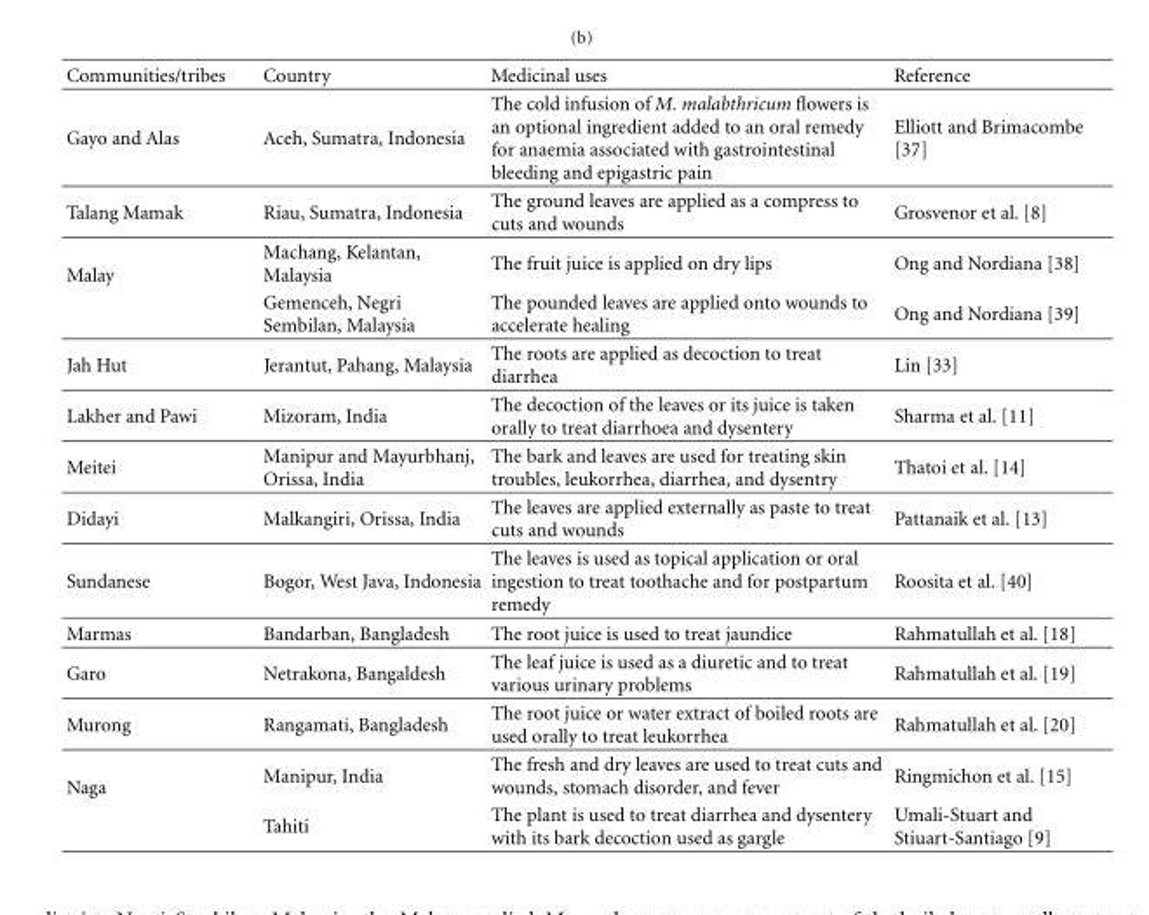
<table><thead><tr><td>Communities/tribes</td><td>Country</td><td>Medicinal uses</td><td>Reference</td></tr></thead><tbody><tr><td>Gayo and Alas</td><td>Aceh, Sumatra, Indonesia</td><td>The cold infusion of M. malabthricum flowers is an optional ingredient added to an oral remedy for anaemia associated with gastrointestinal bleeding and epigastric pain</td><td>Elliott and Brimacombe [37]</td></tr><tr><td>Talang Mamak</td><td>Riau, Sumatra, Indonesia</td><td>The ground leaves are applied as a compress to cuts and wounds</td><td>Grosvenor et al. [8]</td></tr><tr><td rowspan="2">Malay</td><td>Machang, Kelantan, Malaysia</td><td>The fruit juice is applied on dry lips</td><td>Ong and Nordiana [38]</td></tr><tr><td>Gemenceh, Negri Sembilan, Malaysia</td><td>The pounded leaves are applied onto wounds to accelerate healing</td><td>Ong and Nordiana [39]</td></tr><tr><td>Jah Hut</td><td>Jerantut, Pahang, Malaysia</td><td>The roots are applied as decoction to treat diarrhea</td><td>Lin [33]</td></tr><tr><td>Lakher and Pawi</td><td>Mizoram, India</td><td>The decoction of the leaves or its juice is taken orally to treat diarrhoea and dysentery</td><td>Sharma et al. [11]</td></tr><tr><td>Meitei</td><td>Manipur and Mayurbhanj, Orissa, India</td><td>The bark and leaves are used for treating skin troubles, leukorrhea, diarrhea, and dysentry</td><td>Thatoi et al. [14]</td></tr><tr><td>Didayi</td><td>Malkangiri, Orissa, India</td><td>The leaves are applied externally as paste to treat cuts and wounds</td><td>Pattanaik et al. [13]</td></tr><tr><td>Sundanese</td><td>Bogor, West Java, Indonesia</td><td>The leaves is used as topical application or oral ingestion to treat toothache and for postpartum remedy</td><td>Roosita et al. [40]</td></tr><tr><td>Marmas</td><td>Bandarban, Bangladesh</td><td>The root juice is used to treat jaundice</td><td>Rahmatullah et al. [18]</td></tr><tr><td>Garo</td><td>Netrakona, Bangaldesh</td><td>The leaf juice is used as a diuretic and to treat various urinary problems</td><td>Rahmatullah et al. [19]</td></tr><tr><td>Murong</td><td>Rangamati, Bangladesh</td><td>The root juice or water extract of boiled roots are used orally to treat leukorrhea</td><td>Rahmatullah et al. [20]</td></tr><tr><td rowspan="2">Naga</td><td>Manipur, India</td><td>The fresh and dry leaves are used to treat cuts and wounds, stomach disorder, and fever</td><td>Ringmichon et al. [15]</td></tr><tr><td>Tahiti</td><td>The plant is used to treat diarrhea and dysentery with its bark decoction used as gargle</td><td>Umali-Stuart and Stiuart-Santiago [9]</td></tr></tbody></table>